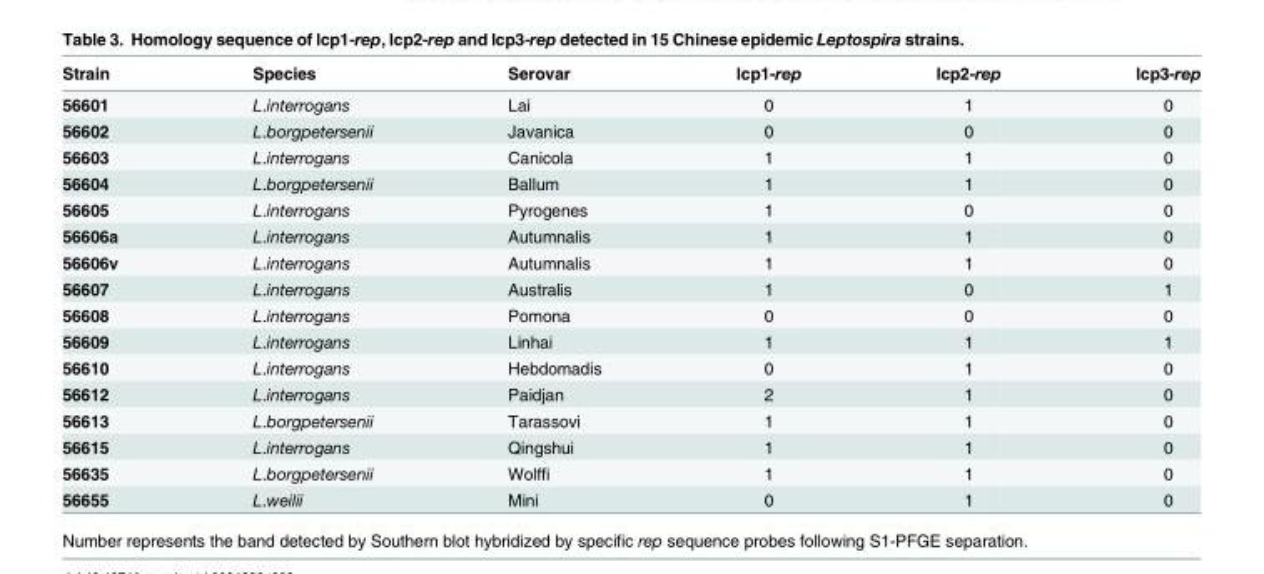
<table><thead><tr><td>Strain</td><td>Species</td><td>Serovar</td><td>lcp1-rep</td><td>lcp2-rep</td><td>lcp3-rep</td></tr></thead><tbody><tr><td>56601</td><td>L.interrogans</td><td>Lai</td><td>0</td><td>1</td><td>0</td></tr><tr><td>56602</td><td>L.borgpetersenii</td><td>Javanica</td><td>0</td><td>0</td><td>0</td></tr><tr><td>56603</td><td>L.interrogans</td><td>Canicola</td><td>1</td><td>1</td><td>0</td></tr><tr><td>56604</td><td>L.borgpetersenii</td><td>Ballum</td><td>1</td><td>1</td><td>0</td></tr><tr><td>56605</td><td>L.interrogans</td><td>Pyrogenes</td><td>1</td><td>0</td><td>0</td></tr><tr><td>56606a</td><td>L.interrogans</td><td>Autumnalis</td><td>1</td><td>1</td><td>0</td></tr><tr><td>56606v</td><td>L.interrogans</td><td>Autumnalis</td><td>1</td><td>1</td><td>0</td></tr><tr><td>56607</td><td>L.interrogans</td><td>Australis</td><td>1</td><td>0</td><td>1</td></tr><tr><td>56608</td><td>L.interrogans</td><td>Pomona</td><td>0</td><td>0</td><td>0</td></tr><tr><td>56609</td><td>L.interrogans</td><td>Linhai</td><td>1</td><td>1</td><td>1</td></tr><tr><td>56610</td><td>L.interrogans</td><td>Hebdomadis</td><td>0</td><td>1</td><td>0</td></tr><tr><td>56612</td><td>L.interrogans</td><td>Paidjan</td><td>2</td><td>1</td><td>0</td></tr><tr><td>56613</td><td>L.borgpetersenii</td><td>Tarassovi</td><td>1</td><td>1</td><td>0</td></tr><tr><td>56615</td><td>L.interrogans</td><td>Qingshui</td><td>1</td><td>1</td><td>0</td></tr><tr><td>56635</td><td>L.borgpetersenii</td><td>Wolffi</td><td>1</td><td>1</td><td>0</td></tr><tr><td>56655</td><td>L.weilii</td><td>Mini</td><td>0</td><td>1</td><td>0</td></tr></tbody></table>